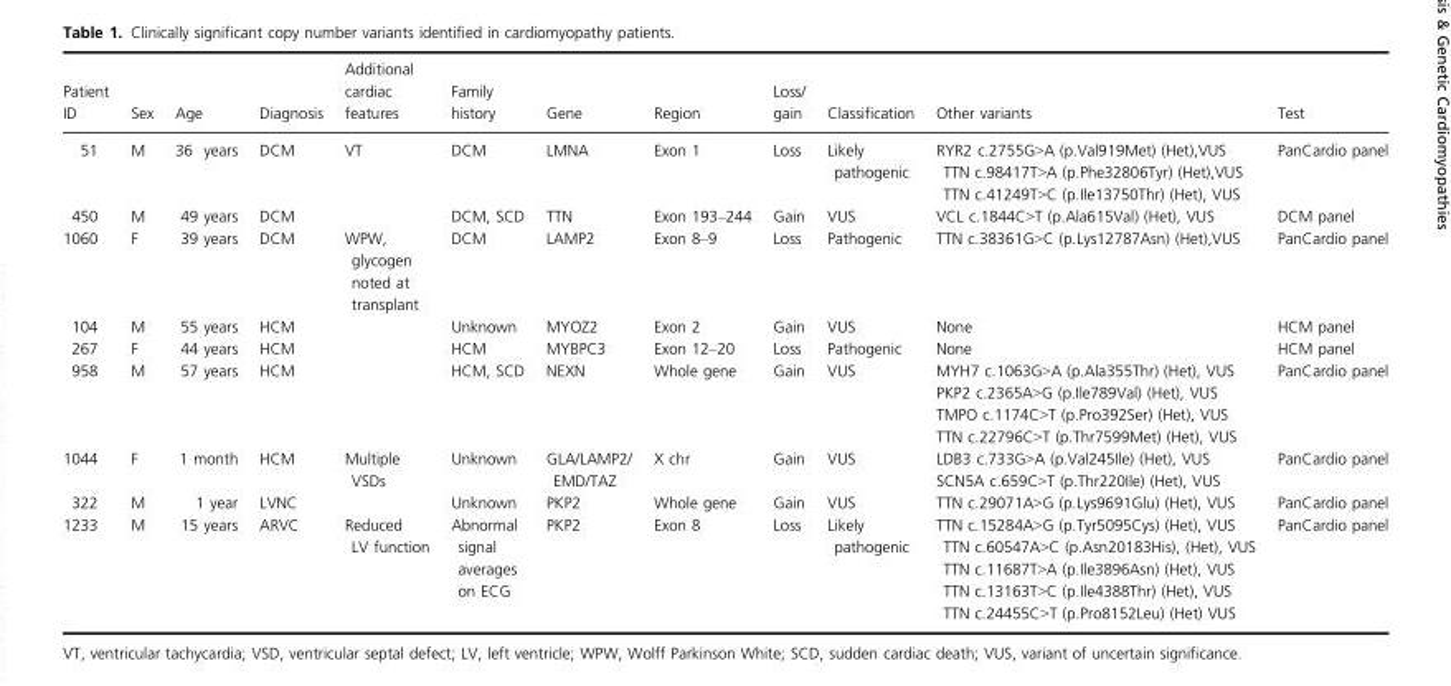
<table><thead><tr><td>Patient ID</td><td>Sex</td><td>Age</td><td>Diagnosis</td><td>Additional cardiac features</td><td>Family history</td><td>Gene</td><td>Region</td><td>Loss/ gain</td><td>Classification</td><td>Other variants</td><td>Test</td></tr></thead><tbody><tr><td>51</td><td>M</td><td>36 years</td><td>DCM</td><td>VT</td><td>DCM</td><td>LMNA</td><td>Exon 1</td><td>Loss</td><td>Likely pathogenic</td><td>RYR2 c.2755G&gt;A (p.Val919Met) (Het),VUS TTN c.98417T&gt;A (p.Phe32806Tyr) (Het),VUS TTN c.41249T&gt;C (p.Ile13750Thr) (Het), VUS</td><td>PanCardio panel</td></tr><tr><td>450</td><td>M</td><td>49 years</td><td>DCM</td><td></td><td>DCM, SCD</td><td>TTN</td><td>Exon 193–244</td><td>Gain</td><td>VUS</td><td>VCL c.1844C&gt;T (p.Ala615Val) (Het), VUS</td><td>DCM panel</td></tr><tr><td>1060</td><td>F</td><td>39 years</td><td>DCM</td><td>WPW, glycogen noted at transplant</td><td>DCM</td><td>LAMP2</td><td>Exon 8–9</td><td>Loss</td><td>Pathogenic</td><td>TTN c.38361G&gt;C (p.Lys12787Asn) (Het),VUS</td><td>PanCardio panel</td></tr><tr><td>104</td><td>M</td><td>55 years</td><td>HCM</td><td></td><td>Unknown</td><td>MYOZ2</td><td>Exon 2</td><td>Gain</td><td>VUS</td><td>None</td><td>HCM panel</td></tr><tr><td>267</td><td>F</td><td>44 years</td><td>HCM</td><td></td><td>HCM</td><td>MYBPC3</td><td>Exon 12–20</td><td>Loss</td><td>Pathogenic</td><td>None</td><td>HCM panel</td></tr><tr><td>958</td><td>M</td><td>57 years</td><td>HCM</td><td></td><td>HCM, SCD</td><td>NEXN</td><td>Whole gene</td><td>Gain</td><td>VUS</td><td>MYH7 c.1063G&gt;A (p.Ala355Thr) (Het), VUS PKP2 c.2365A&gt;G (p.Ile789Val) (Het), VUS TMPO c.1174C&gt;T (p.Pro392Ser) (Het), VUS TTN c.22796C&gt;T (p.Thr7599Met) (Het), VUS</td><td>PanCardio panel</td></tr><tr><td>1044</td><td>F</td><td>1 month</td><td>HCM</td><td>Multiple VSDs</td><td>Unknown</td><td>GLA/LAMP2/ EMD/TAZ</td><td>X chr</td><td>Gain</td><td>VUS</td><td>LDB3 c.733G&gt;A (p.Val245Ile) (Het), VUS SCN5A c.659C&gt;T (p.Thr220Ile) (Het), VUS</td><td>PanCardio panel</td></tr><tr><td>322</td><td>M</td><td>1 year</td><td>LVNC</td><td></td><td>Unknown</td><td>PKP2</td><td>Whole gene</td><td>Gain</td><td>VUS</td><td>TTN c.29071A&gt;G (p.Lys9691Glu) (Het), VUS</td><td>PanCardio panel</td></tr><tr><td>1233</td><td>M</td><td>15 years</td><td>ARVC</td><td>Reduced LV function</td><td>Abnormal signal averages on ECG</td><td>PKP2</td><td>Exon 8</td><td>Loss</td><td>Likely pathogenic</td><td>TTN c.15284A&gt;G (p.Tyr5095Cys) (Het), VUS TTN c.60547A&gt;C (p.Asn20183His), (Het), VUS TTN c.11687T&gt;A (p.Ile3896Asn) (Het), VUS TTN c.13163T&gt;C (p.Ile4388Thr) (Het), VUS TTN c.24455C&gt;T (p.Pro8152Leu) (Het) VUS</td><td>PanCardio panel</td></tr></tbody></table>